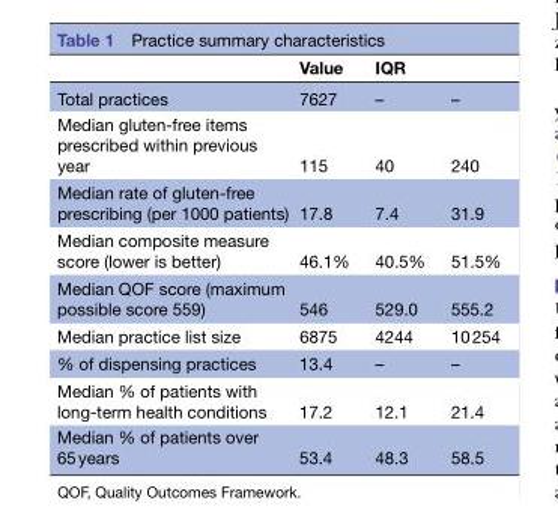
<table><thead><tr><td rowspan="2">Total practices</td><td rowspan="2">Value 7627</td><td colspan="2">IQR</td></tr><tr><td>–</td><td>–</td></tr></thead><tbody><tr><td>Median gluten-free items prescribed within previous year</td><td>115</td><td>40</td><td>240</td></tr><tr><td>Median rate of gluten-free prescribing (per 1000 patients)</td><td>17.8</td><td>7.4</td><td>31.9</td></tr><tr><td>Median composite measure score (lower is better)</td><td>46.1%</td><td>40.5%</td><td>51.5%</td></tr><tr><td>Median QOF score (maximum possible score 559)</td><td>546</td><td>529.0</td><td>555.2</td></tr><tr><td>Median practice list size</td><td>6875</td><td>4244</td><td>10 254</td></tr><tr><td>% of dispensing practices</td><td>13.4</td><td>–</td><td>–</td></tr><tr><td>Median % of patients with long-term health conditions</td><td>17.2</td><td>12.1</td><td>21.4</td></tr><tr><td>Median % of patients over 65 years</td><td>53.4</td><td>48.3</td><td>58.5</td></tr></tbody></table>